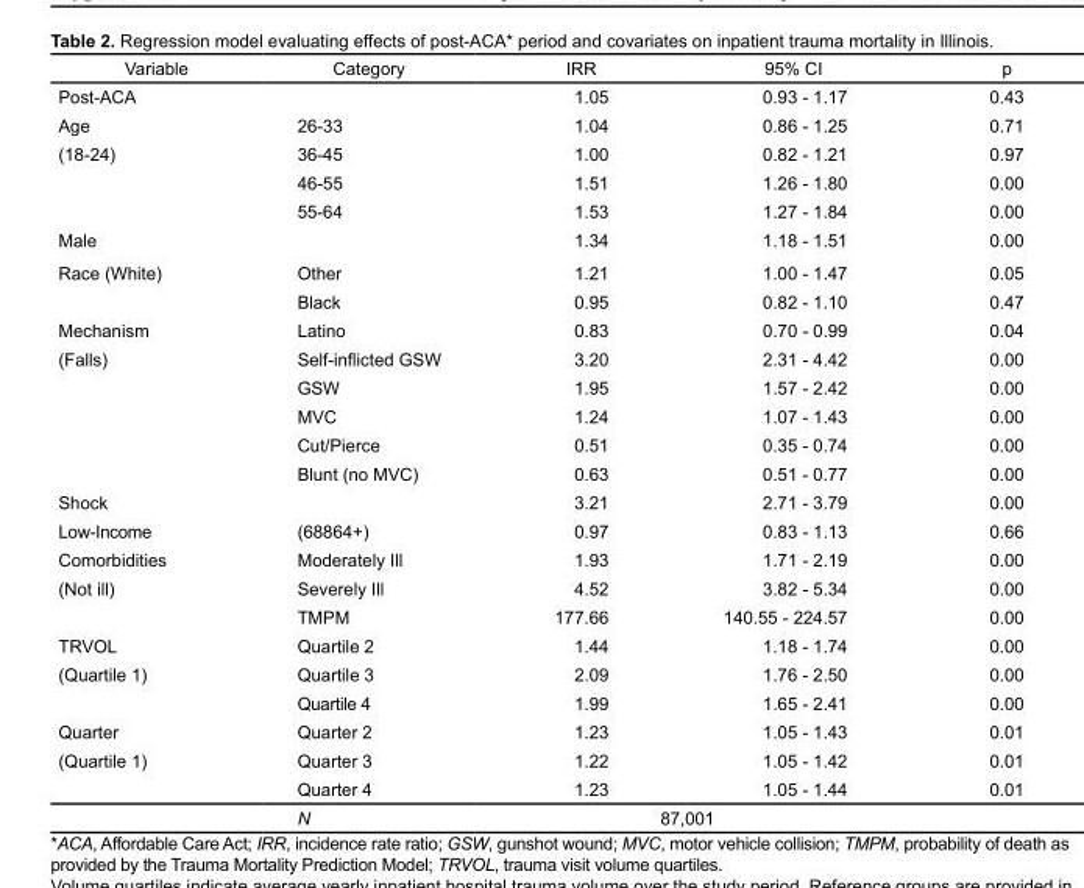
<table><thead><tr><td>Variable</td><td>Category</td><td>IRR</td><td>95% CI</td><td>p</td></tr></thead><tbody><tr><td>Post-ACA</td><td></td><td>1.05</td><td>0.93 - 1.17</td><td>0.43</td></tr><tr><td rowspan="4">Age (18-24)</td><td>26-33</td><td>1.04</td><td>0.86 - 1.25</td><td>0.71</td></tr><tr><td>36-45</td><td>1.00</td><td>0.82 - 1.21</td><td>0.97</td></tr><tr><td>46-55</td><td>1.51</td><td>1.26 - 1.80</td><td>0.00</td></tr><tr><td>55-64</td><td>1.53</td><td>1.27 - 1.84</td><td>0.00</td></tr><tr><td>Male</td><td></td><td>1.34</td><td>1.18 - 1.51</td><td>0.00</td></tr><tr><td rowspan="2">Race (White)</td><td>Other</td><td>1.21</td><td>1.00 - 1.47</td><td>0.05</td></tr><tr><td>Black</td><td>0.95</td><td>0.82 - 1.10</td><td>0.47</td></tr><tr><td rowspan="6">Mechanism (Falls)</td><td>Latino</td><td>0.83</td><td>0.70 - 0.99</td><td>0.04</td></tr><tr><td>Self-inflicted GSW</td><td>3.20</td><td>2.31 - 4.42</td><td>0.00</td></tr><tr><td>GSW</td><td>1.95</td><td>1.57 - 2.42</td><td>0.00</td></tr><tr><td>MVC</td><td>1.24</td><td>1.07 - 1.43</td><td>0.00</td></tr><tr><td>Cut/Pierce</td><td>0.51</td><td>0.35 - 0.74</td><td>0.00</td></tr><tr><td>Blunt (no MVC)</td><td>0.63</td><td>0.51 - 0.77</td><td>0.00</td></tr><tr><td>Shock</td><td></td><td>3.21</td><td>2.71 - 3.79</td><td>0.00</td></tr><tr><td>Low-Income</td><td>(68864+)</td><td>0.97</td><td>0.83 - 1.13</td><td>0.66</td></tr><tr><td rowspan="3">Comorbidities (Not ill)</td><td>Moderately Ill</td><td>1.93</td><td>1.71 - 2.19</td><td>0.00</td></tr><tr><td>Severely Ill</td><td>4.52</td><td>3.82 - 5.34</td><td>0.00</td></tr><tr><td>TMPM</td><td>177.66</td><td>140.55 - 224.57</td><td>0.00</td></tr><tr><td rowspan="3">TRVOL (Quartile 1)</td><td>Quartile 2</td><td>1.44</td><td>1.18 - 1.74</td><td>0.00</td></tr><tr><td>Quartile 3</td><td>2.09</td><td>1.76 - 2.50</td><td>0.00</td></tr><tr><td>Quartile 4</td><td>1.99</td><td>1.65 - 2.41</td><td>0.00</td></tr><tr><td rowspan="4">Quarter (Quartile 1)</td><td>Quarter 2</td><td>1.23</td><td>1.05 - 1.43</td><td>0.01</td></tr><tr><td>Quarter 3</td><td>1.22</td><td>1.05 - 1.42</td><td>0.01</td></tr><tr><td>Quarter 4</td><td>1.23</td><td>1.05 - 1.44</td><td>0.01</td></tr><tr><td>N</td><td colspan="2">87,001</td><td></td></tr></tbody></table>